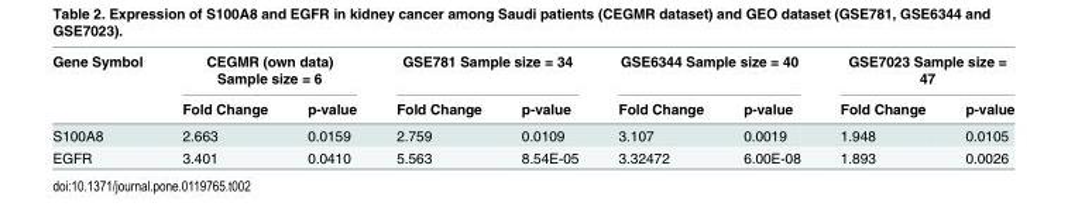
<table><thead><tr><td rowspan="2">Gene Symbol</td><td colspan="2">CEGMR (own data) Sample size = 6</td><td colspan="2">GSE781 Sample size = 34</td><td colspan="2">GSE6344 Sample size = 40</td><td colspan="2">GSE7023 Sample size = 47</td></tr><tr><td>Fold Change</td><td>p-value</td><td>Fold Change</td><td>p-value</td><td>Fold Change</td><td>p-value</td><td>Fold Change</td><td>p-value</td></tr></thead><tbody><tr><td>S100A8</td><td>2.663</td><td>0.0159</td><td>2.759</td><td>0.0109</td><td>3.107</td><td>0.0019</td><td>1.948</td><td>0.0105</td></tr><tr><td>EGFR</td><td>3.401</td><td>0.0410</td><td>5.563</td><td>8.54E-05</td><td>3.32472</td><td>6.00E-08</td><td>1.893</td><td>0.0026</td></tr></tbody></table>